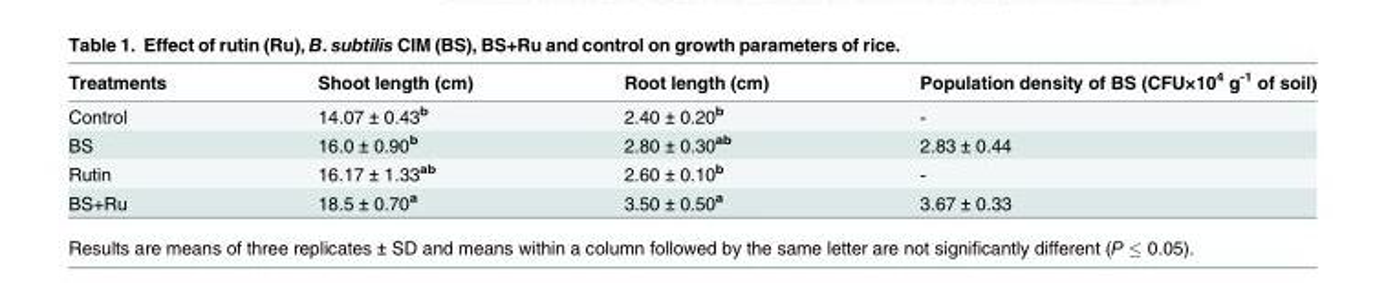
<table><thead><tr><td>Treatments</td><td>Shoot length (cm)</td><td>Root length (cm)</td><td>Population density of BS (CFU×10<sup>4</sup> g<sup>-1</sup> of soil)</td></tr></thead><tbody><tr><td>Control</td><td>14.07 ± 0.43<sup>b</sup></td><td>2.40 ± 0.20<sup>b</sup></td><td>-</td></tr><tr><td>BS</td><td>16.0 ± 0.90<sup>b</sup></td><td>2.80 ± 0.30<sup>ab</sup></td><td>2.83 ± 0.44</td></tr><tr><td>Rutin</td><td>16.17 ± 1.33<sup>ab</sup></td><td>2.60 ± 0.10<sup>b</sup></td><td>-</td></tr><tr><td>BS+Ru</td><td>18.5 ± 0.70<sup>a</sup></td><td>3.50 ± 0.50<sup>a</sup></td><td>3.67 ± 0.33</td></tr></tbody></table>